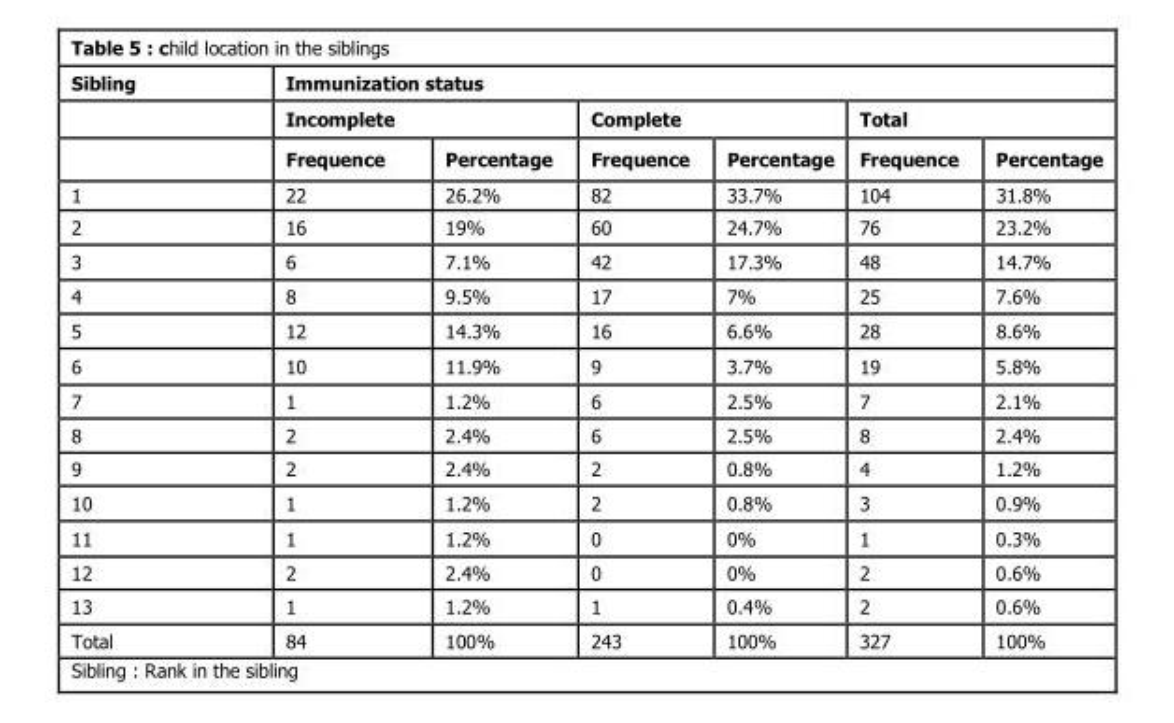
<table><thead><tr><td rowspan="3">Sibling</td><td colspan="6">Immunization status</td></tr><tr><td colspan="2">Incomplete</td><td colspan="2">Complete</td><td colspan="2">Total</td></tr><tr><td>Frequence</td><td>Percentage</td><td>Frequence</td><td>Percentage</td><td>Frequence</td><td>Percentage</td></tr></thead><tbody><tr><td>1</td><td>22</td><td>26.2%</td><td>82</td><td>33.7%</td><td>104</td><td>31.8%</td></tr><tr><td>2</td><td>16</td><td>19%</td><td>60</td><td>24.7%</td><td>76</td><td>23.2%</td></tr><tr><td>3</td><td>6</td><td>7.1%</td><td>42</td><td>17.3%</td><td>48</td><td>14.7%</td></tr><tr><td>4</td><td>8</td><td>9.5%</td><td>17</td><td>7%</td><td>25</td><td>7.6%</td></tr><tr><td>5</td><td>12</td><td>14.3%</td><td>16</td><td>6.6%</td><td>28</td><td>8.6%</td></tr><tr><td>6</td><td>10</td><td>11.9%</td><td>9</td><td>3.7%</td><td>19</td><td>5.8%</td></tr><tr><td>7</td><td>1</td><td>1.2%</td><td>6</td><td>2.5%</td><td>7</td><td>2.1%</td></tr><tr><td>8</td><td>2</td><td>2.4%</td><td>6</td><td>2.5%</td><td>8</td><td>2.4%</td></tr><tr><td>9</td><td>2</td><td>2.4%</td><td>2</td><td>0.8%</td><td>4</td><td>1.2%</td></tr><tr><td>10</td><td>1</td><td>1.2%</td><td>2</td><td>0.8%</td><td>3</td><td>0.9%</td></tr><tr><td>11</td><td>1</td><td>1.2%</td><td>0</td><td>0%</td><td>1</td><td>0.3%</td></tr><tr><td>12</td><td>2</td><td>2.4%</td><td>0</td><td>0%</td><td>2</td><td>0.6%</td></tr><tr><td>13</td><td>1</td><td>1.2%</td><td>1</td><td>0.4%</td><td>2</td><td>0.6%</td></tr><tr><td>Total</td><td>84</td><td>100%</td><td>243</td><td>100%</td><td>327</td><td>100%</td></tr></tbody></table>